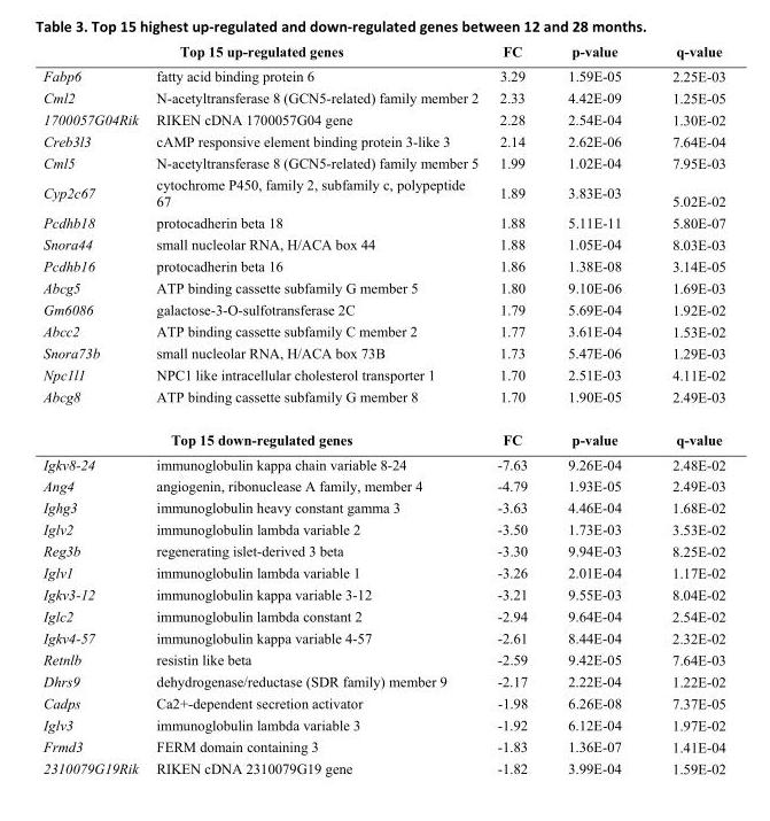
<table><thead><tr><td></td><td>Top 15 up-regulated genes</td><td>FC</td><td>p-value</td><td>q-value</td></tr></thead><tbody><tr><td>Fabp6</td><td>fatty acid binding protein 6</td><td>3.29</td><td>1.59E-05</td><td>2.25E-03</td></tr><tr><td>Cml2</td><td>N-acetyltransferase 8 (GCN5-related) family member 2</td><td>2.33</td><td>4.42E-09</td><td>1.25E-05</td></tr><tr><td>1700057G04Rik</td><td>RIKEN cDNA 1700057G04 gene</td><td>2.28</td><td>2.54E-04</td><td>1.30E-02</td></tr><tr><td>Creb3l3</td><td>cAMP responsive element binding protein 3-like 3</td><td>2.14</td><td>2.62E-06</td><td>7.64E-04</td></tr><tr><td>Cml5</td><td>N-acetyltransferase 8 (GCN5-related) family member 5</td><td>1.99</td><td>1.02E-04</td><td>7.95E-03</td></tr><tr><td>Cyp2c67</td><td>cytochrome P450, family 2, subfamily c, polypeptide 67</td><td>1.89</td><td>3.83E-03</td><td>5.02E-02</td></tr><tr><td>Pcdhb18</td><td>protocadherin beta 18</td><td>1.88</td><td>5.11E-11</td><td>5.80E-07</td></tr><tr><td>Snora44</td><td>small nucleolar RNA, H/ACA box 44</td><td>1.88</td><td>1.05E-04</td><td>8.03E-03</td></tr><tr><td>Pcdhb16</td><td>protocadherin beta 16</td><td>1.86</td><td>1.38E-08</td><td>3.14E-05</td></tr><tr><td>Abcg5</td><td>ATP binding cassette subfamily G member 5</td><td>1.80</td><td>9.10E-06</td><td>1.69E-03</td></tr><tr><td>Gm6086</td><td>galactose-3-O-sulfotransferase 2C</td><td>1.79</td><td>5.69E-04</td><td>1.92E-02</td></tr><tr><td>Abcc2</td><td>ATP binding cassette subfamily C member 2</td><td>1.77</td><td>3.61E-04</td><td>1.53E-02</td></tr><tr><td>Snora73b</td><td>small nucleolar RNA, H/ACA box 73B</td><td>1.73</td><td>5.47E-06</td><td>1.29E-03</td></tr><tr><td>Npc1l1</td><td>NPC1 like intracellular cholesterol transporter 1</td><td>1.70</td><td>2.51E-03</td><td>4.11E-02</td></tr><tr><td rowspan="2">Abcg8</td><td>ATP binding cassette subfamily G member 8</td><td>1.70</td><td>1.90E-05</td><td>2.49E-03</td></tr><tr><td>Top 15 down-regulated genes</td><td>FC</td><td>p-value</td><td>q-value</td></tr><tr><td>Igkv8-24</td><td>immunoglobulin kappa chain variable 8-24</td><td>-7.63</td><td>9.26E-04</td><td>2.48E-02</td></tr><tr><td>Ang4</td><td>angiogenin, ribonuclease A family, member 4</td><td>-4.79</td><td>1.93E-05</td><td>2.49E-03</td></tr><tr><td>Ighg3</td><td>immunoglobulin heavy constant gamma 3</td><td>-3.63</td><td>4.46E-04</td><td>1.68E-02</td></tr><tr><td>Iglv2</td><td>immunoglobulin lambda variable 2</td><td>-3.50</td><td>1.73E-03</td><td>3.53E-02</td></tr><tr><td>Reg3b</td><td>regenerating islet-derived 3 beta</td><td>-3.30</td><td>9.94E-03</td><td>8.25E-02</td></tr><tr><td>Iglv1</td><td>immunoglobulin lambda variable 1</td><td>-3.26</td><td>2.01E-04</td><td>1.17E-02</td></tr><tr><td>Igkv3-12</td><td>immunoglobulin kappa variable 3-12</td><td>-3.21</td><td>9.55E-03</td><td>8.04E-02</td></tr><tr><td>Iglc2</td><td>immunoglobulin lambda constant 2</td><td>-2.94</td><td>9.64E-04</td><td>2.54E-02</td></tr><tr><td>Igkv4-57</td><td>immunoglobulin kappa variable 4-57</td><td>-2.61</td><td>8.44E-04</td><td>2.32E-02</td></tr><tr><td>Retnlb</td><td>resistin like beta</td><td>-2.59</td><td>9.42E-05</td><td>7.64E-03</td></tr><tr><td>Dhrs9</td><td>dehydrogenase/reductase (SDR family) member 9</td><td>-2.17</td><td>2.22E-04</td><td>1.22E-02</td></tr><tr><td>Cadps</td><td>Ca2+-dependent secretion activator</td><td>-1.98</td><td>6.26E-08</td><td>7.37E-05</td></tr><tr><td>Iglv3</td><td>immunoglobulin lambda variable 3</td><td>-1.92</td><td>6.12E-04</td><td>1.97E-02</td></tr><tr><td>Frmd3</td><td>FERM domain containing 3</td><td>-1.83</td><td>1.36E-07</td><td>1.41E-04</td></tr><tr><td>2310079G19Rik</td><td>RIKEN cDNA 2310079G19 gene</td><td>-1.82</td><td>3.99E-04</td><td>1.59E-02</td></tr></tbody></table>